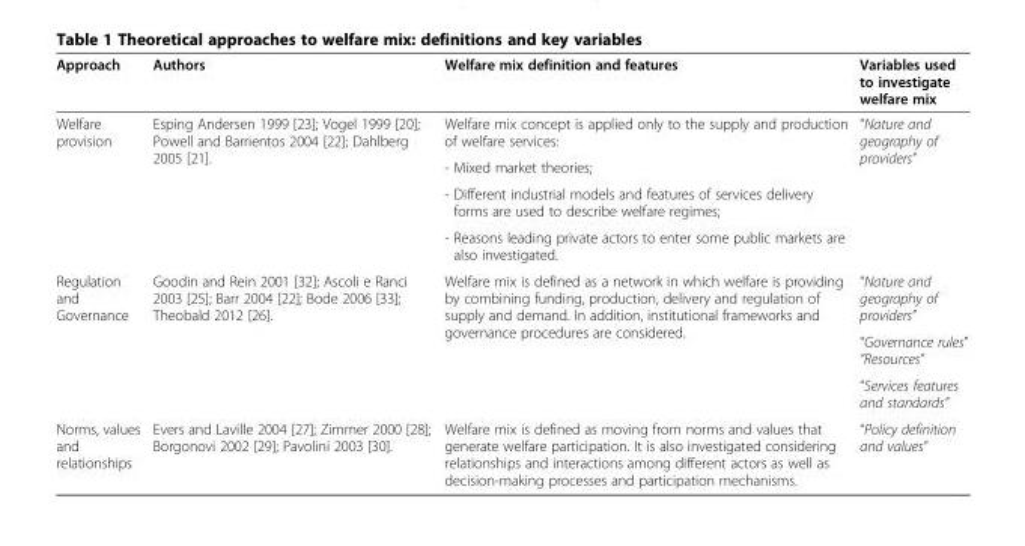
<table><thead><tr><td>Approach</td><td>Authors</td><td>Welfare mix definition and features</td><td>Variables used to investigate welfare mix</td></tr></thead><tbody><tr><td rowspan="4">Welfare provision</td><td rowspan="4">Esping Andersen 1999 [23]; Vogel 1999 [20]; Powell and Barrientos 2004 [22]; Dahlberg 2005 [21].</td><td>Welfare mix concept is applied only to the supply and production of welfare services:</td><td rowspan="4">“Nature and geography of providers”</td></tr><tr><td>- Mixed market theories;</td></tr><tr><td>- Different industrial models and features of services delivery forms are used to describe welfare regimes;</td></tr><tr><td>- Reasons leading private actors to enter some public markets are also investigated.</td></tr><tr><td rowspan="3">Regulation and Governance</td><td rowspan="3">Goodin and Rein 2001 [32]; Ascoli e Ranci 2003 [25]; Barr 2004 [22]; Bode 2006 [33]; Theobald 2012 [26].</td><td rowspan="3">Welfare mix is defined as a network in which welfare is providing by combining funding, production, delivery and regulation of supply and demand. In addition, institutional frameworks and governance procedures are considered.</td><td>“Nature and geography of providers”</td></tr><tr><td>“Governance rules” “Resources”</td></tr><tr><td>“Services features and standards”</td></tr><tr><td>Norms, values and relationships</td><td>Evers and Laville 2004 [27]; Zimmer 2000 [28]; Borgonovi 2002 [29]; Pavolini 2003 [30].</td><td>Welfare mix is defined as moving from norms and values that generate welfare participation. It is also investigated considering relationships and interactions among different actors as well as decision-making processes and participation mechanisms.</td><td>“Policy definition and values”</td></tr></tbody></table>